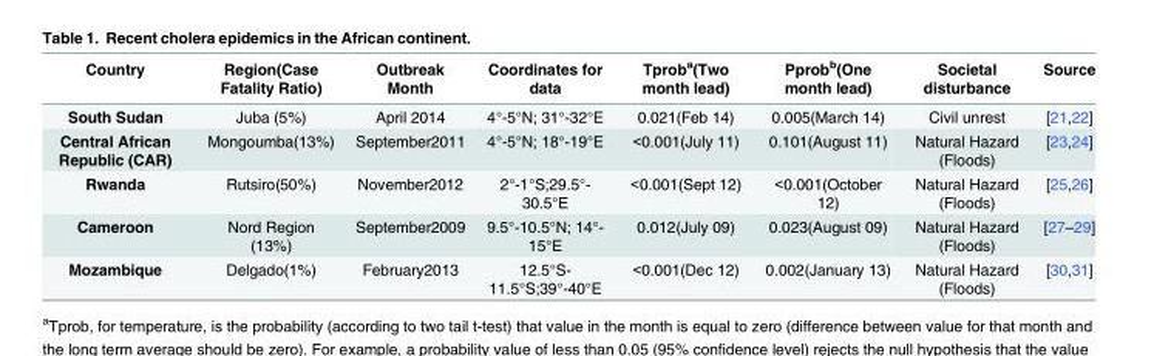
<table><thead><tr><td>Country</td><td>Region(Case Fatality Ratio)</td><td>Outbreak Month</td><td>Coordinates for data</td><td>Tprob<sup>a</sup>(Two month lead)</td><td>Pprob<sup>b</sup>(One month lead)</td><td>Societal disturbance</td><td>Source</td></tr></thead><tbody><tr><td>South Sudan</td><td>Juba (5%)</td><td>April 2014</td><td>4°-5°N; 31°-32°E</td><td>0.021(Feb 14)</td><td>0.005(March 14)</td><td>Civil unrest</td><td>[21,22]</td></tr><tr><td>Central African Republic (CAR)</td><td>Mongoumba(13%)</td><td>September2011</td><td>4°-5°N; 18°-19°E</td><td>&lt;0.001(July 11)</td><td>0.101(August 11)</td><td>Natural Hazard (Floods)</td><td>[23,24]</td></tr><tr><td>Rwanda</td><td>Rutsiro(50%)</td><td>November2012</td><td>2°-1°S;29.5°- 30.5°E</td><td>&lt;0.001(Sept 12)</td><td>&lt;0.001(October 12)</td><td>Natural Hazard (Floods)</td><td>[25,26]</td></tr><tr><td>Cameroon</td><td>Nord Region (13%)</td><td>September2009</td><td>9.5°-10.5°N; 14°- 15°E</td><td>0.012(July 09)</td><td>0.023(August 09)</td><td>Natural Hazard (Floods)</td><td>[27–29]</td></tr><tr><td>Mozambique</td><td>Delgado(1%)</td><td>February2013</td><td>12.5°S- 11.5°S;39°-40°E</td><td>&lt;0.001(Dec 12)</td><td>0.002(January 13)</td><td>Natural Hazard (Floods)</td><td>[30,31]</td></tr></tbody></table>